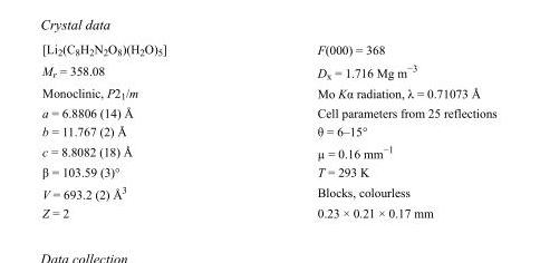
<table><tbody><tr><td>[Li<sub>2</sub>(C<sub>8</sub>H<sub>2</sub>N<sub>2</sub>O<sub>8</sub>)(H<sub>2</sub>O)<sub>5</sub>]</td><td>F(000) = 368</td></tr><tr><td>M<sub>r</sub> = 358.08</td><td>D<sub>x</sub> = 1.716 Mg m<sup>−3</sup></td></tr><tr><td>Monoclinic, P2<sub>1</sub>/m</td><td>Mo Kα radiation, λ = 0.71073 Å</td></tr><tr><td>a = 6.8806 (14) Å</td><td>Cell parameters from 25 reflections</td></tr><tr><td>b = 11.767 (2) Å</td><td>θ = 6–15°</td></tr><tr><td>c = 8.8082 (18) Å</td><td>µ = 0.16 mm<sup>−1</sup></td></tr><tr><td>β = 103.59 (3)°</td><td>T = 293 K</td></tr><tr><td>V = 693.2 (2) Å<sup>3</sup></td><td>Blocks, colourless</td></tr><tr><td>Z = 2</td><td>0.23 × 0.21 × 0.17 mm</td></tr></tbody></table>